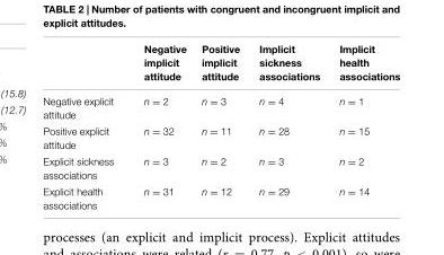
<table><thead><tr><td></td><td>Negative implicit attitude</td><td>Positive implicit attitude</td><td>Implicit sickness associations</td><td>Implicit health associations</td></tr></thead><tbody><tr><td>Negative explicit attitude</td><td>n = 2</td><td>n = 3</td><td>n = 4</td><td>n = 1</td></tr><tr><td>Positive explicit attitude</td><td>n = 32</td><td>n = 11</td><td>n = 28</td><td>n = 15</td></tr><tr><td>Explicit sickness associations</td><td>n = 3</td><td>n = 2</td><td>n = 3</td><td>n = 2</td></tr><tr><td>Explicit health associations</td><td>n = 31</td><td>n = 12</td><td>n = 29</td><td>n = 14</td></tr></tbody></table>